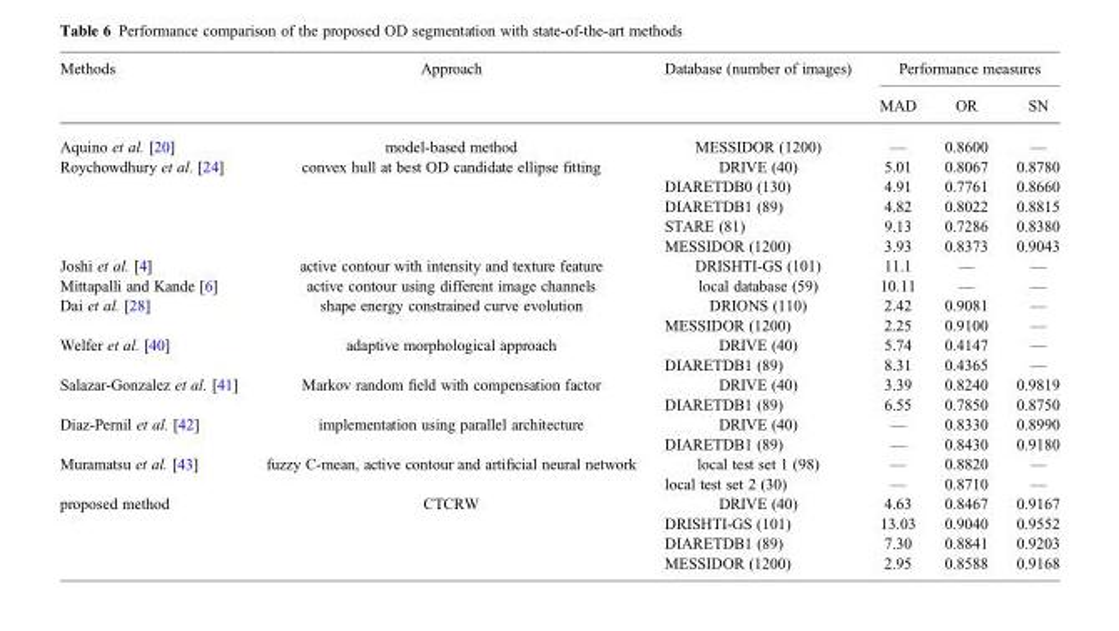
<table><thead><tr><td rowspan="2">Methods</td><td rowspan="2">Approach</td><td rowspan="2">Database (number of images)</td><td colspan="3">Performance measures</td></tr><tr><td>MAD</td><td>OR</td><td>SN</td></tr></thead><tbody><tr><td>Aquino et al. [20]</td><td>model-based method</td><td>MESSIDOR (1200)</td><td>—</td><td>0.8600</td><td>—</td></tr><tr><td rowspan="5">Roychowdhury et al. [24]</td><td rowspan="5">convex hull at best OD candidate ellipse fitting</td><td>DRIVE (40)</td><td>5.01</td><td>0.8067</td><td>0.8780</td></tr><tr><td>DIARETDB0 (130)</td><td>4.91</td><td>0.7761</td><td>0.8660</td></tr><tr><td>DIARETDB1 (89)</td><td>4.82</td><td>0.8022</td><td>0.8815</td></tr><tr><td>STARE (81)</td><td>9.13</td><td>0.7286</td><td>0.8380</td></tr><tr><td>MESSIDOR (1200)</td><td>3.93</td><td>0.8373</td><td>0.9043</td></tr><tr><td>Joshi et al. [4]</td><td>active contour with intensity and texture feature</td><td>DRISHTI-GS (101)</td><td>11.1</td><td>—</td><td>—</td></tr><tr><td>Mittapalli and Kande [6]</td><td>active contour using different image channels</td><td>local database (59)</td><td>10.11</td><td>—</td><td>—</td></tr><tr><td rowspan="2">Dai et al. [28]</td><td rowspan="2">shape energy constrained curve evolution</td><td>DRIONS (110)</td><td>2.42</td><td>0.9081</td><td>—</td></tr><tr><td>MESSIDOR (1200)</td><td>2.25</td><td>0.9100</td><td>—</td></tr><tr><td rowspan="2">Welfer et al. [40]</td><td rowspan="2">adaptive morphological approach</td><td>DRIVE (40)</td><td>5.74</td><td>0.4147</td><td>—</td></tr><tr><td>DIARETDB1 (89)</td><td>8.31</td><td>0.4365</td><td>—</td></tr><tr><td rowspan="2">Salazar-Gonzalez et al. [41]</td><td rowspan="2">Markov random field with compensation factor</td><td>DRIVE (40)</td><td>3.39</td><td>0.8240</td><td>0.9819</td></tr><tr><td>DIARETDB1 (89)</td><td>6.55</td><td>0.7850</td><td>0.8750</td></tr><tr><td rowspan="2">Diaz-Pernil et al. [42]</td><td rowspan="2">implementation using parallel architecture</td><td>DRIVE (40)</td><td>—</td><td>0.8330</td><td>0.8990</td></tr><tr><td>DIARETDB1 (89)</td><td>—</td><td>0.8430</td><td>0.9180</td></tr><tr><td rowspan="2">Muramatsu et al. [43]</td><td rowspan="2">fuzzy C-mean, active contour and artificial neural network</td><td>local test set 1 (98)</td><td>—</td><td>0.8820</td><td>—</td></tr><tr><td>local test set 2 (30)</td><td>—</td><td>0.8710</td><td>—</td></tr><tr><td rowspan="4">proposed method</td><td rowspan="4">CTCRW</td><td>DRIVE (40)</td><td>4.63</td><td>0.8467</td><td>0.9167</td></tr><tr><td>DRISHTI-GS (101)</td><td>13.03</td><td>0.9040</td><td>0.9552</td></tr><tr><td>DIARETDB1 (89)</td><td>7.30</td><td>0.8841</td><td>0.9203</td></tr><tr><td>MESSIDOR (1200)</td><td>2.95</td><td>0.8588</td><td>0.9168</td></tr></tbody></table>